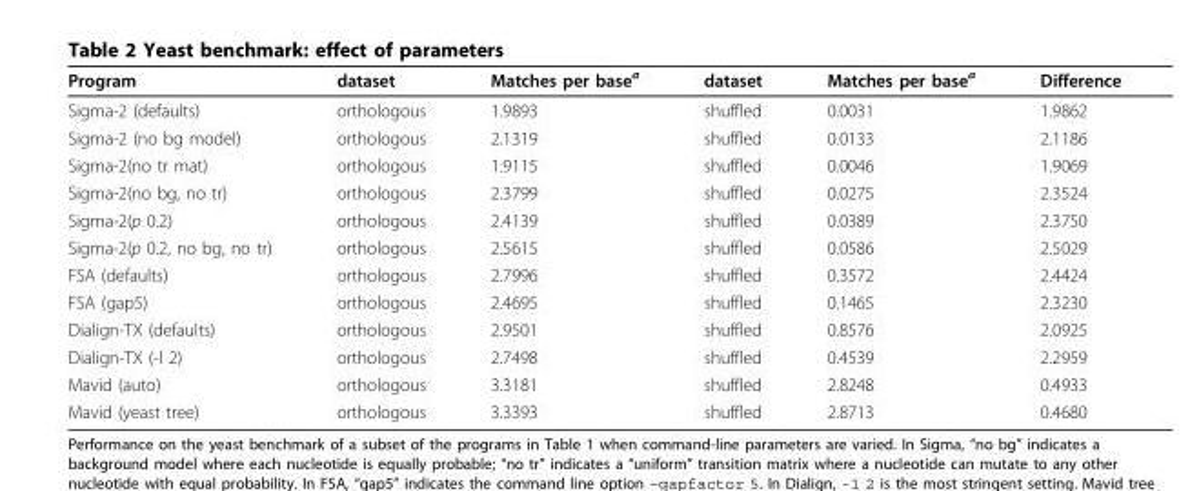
<table><thead><tr><td>Program</td><td>dataset</td><td>Matches per base<sup>a</sup></td><td>dataset</td><td>Matches per base<sup>a</sup></td><td>Difference</td></tr></thead><tbody><tr><td>Sigma-2 (defaults)</td><td>orthologous</td><td>1.9893</td><td>shuffled</td><td>0.0031</td><td>1.9862</td></tr><tr><td>Sigma-2 (no bg model)</td><td>orthologous</td><td>2.1319</td><td>shuffled</td><td>0.0133</td><td>2.1186</td></tr><tr><td>Sigma-2(no tr mat)</td><td>orthologous</td><td>1.9115</td><td>shuffled</td><td>0.0046</td><td>1.9069</td></tr><tr><td>Sigma-2(no bg, no tr)</td><td>orthologous</td><td>2.3799</td><td>shuffled</td><td>0.0275</td><td>2.3524</td></tr><tr><td>Sigma-2(p 0.2)</td><td>orthologous</td><td>2.4139</td><td>shuffled</td><td>0.0389</td><td>2.3750</td></tr><tr><td>Sigma-2(p 0.2, no bg, no tr)</td><td>orthologous</td><td>2.5615</td><td>shuffled</td><td>0.0586</td><td>2.5029</td></tr><tr><td>FSA (defaults)</td><td>orthologous</td><td>2.7996</td><td>shuffled</td><td>0.3572</td><td>2.4424</td></tr><tr><td>FSA (gap5)</td><td>orthologous</td><td>2.4695</td><td>shuffled</td><td>0.1465</td><td>2.3230</td></tr><tr><td>Dialign-TX (defaults)</td><td>orthologous</td><td>2.9501</td><td>shuffled</td><td>0.8576</td><td>2.0925</td></tr><tr><td>Dialign-TX (-l 2)</td><td>orthologous</td><td>2.7498</td><td>shuffled</td><td>0.4539</td><td>2.2959</td></tr><tr><td>Mavid (auto)</td><td>orthologous</td><td>3.3181</td><td>shuffled</td><td>2.8248</td><td>0.4933</td></tr><tr><td>Mavid (yeast tree)</td><td>orthologous</td><td>3.3393</td><td>shuffled</td><td>2.8713</td><td>0.4680</td></tr></tbody></table>